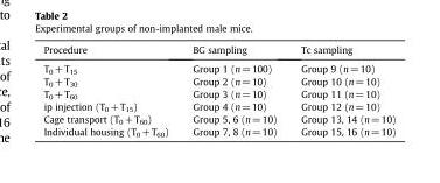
<table><thead><tr><td>Procedure</td><td>BG sampling</td><td>Tc sampling</td></tr></thead><tbody><tr><td>T<sub>0</sub>+T<sub>15</sub></td><td>Group 1 (n=100)</td><td>Group 9 (n=10)</td></tr><tr><td>T<sub>0</sub>+T<sub>30</sub></td><td>Group 2 (n=10)</td><td>Group 10 (n=10)</td></tr><tr><td>T<sub>0</sub>+T<sub>60</sub></td><td>Group 3 (n=10)</td><td>Group 11 (n=10)</td></tr><tr><td>ip injection (T<sub>0</sub>+T<sub>15</sub>)</td><td>Group 4 (n=10)</td><td>Group 12 (n=10)</td></tr><tr><td>Cage transport (T<sub>0</sub>+T<sub>60</sub>)</td><td>Group 5, 6 (n=10)</td><td>Group 13, 14 (n=10)</td></tr><tr><td>Individual housing (T<sub>0</sub>+T<sub>60</sub>)</td><td>Group 7, 8 (n=10)</td><td>Group 15, 16 (n=10)</td></tr></tbody></table>